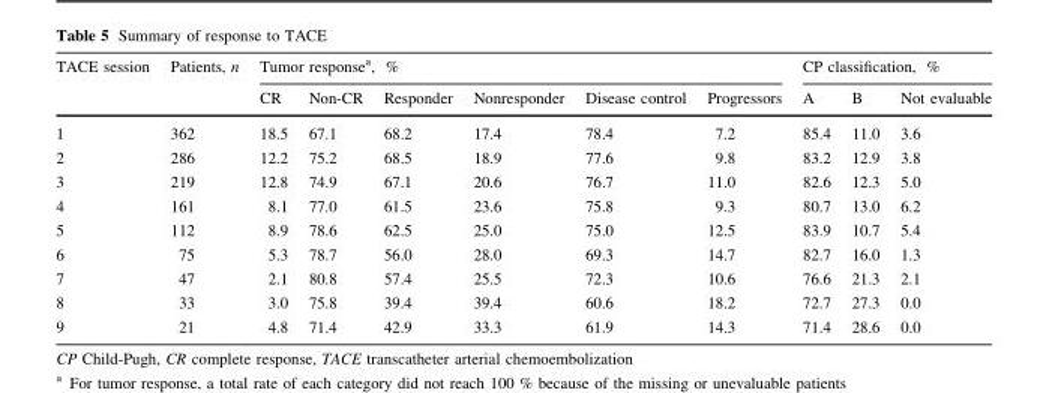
<table><thead><tr><td rowspan="2">TACE session</td><td rowspan="2">Patients, n</td><td colspan="6">Tumor response<sup>a</sup>, %</td><td colspan="3">CP classification, %</td></tr><tr><td>CR</td><td>Non-CR</td><td>Responder</td><td>Nonresponder</td><td>Disease control</td><td>Progressors</td><td>A</td><td>B</td><td>Not evaluable</td></tr></thead><tbody><tr><td>1</td><td>362</td><td>18.5</td><td>67.1</td><td>68.2</td><td>17.4</td><td>78.4</td><td>7.2</td><td>85.4</td><td>11.0</td><td>3.6</td></tr><tr><td>2</td><td>286</td><td>12.2</td><td>75.2</td><td>68.5</td><td>18.9</td><td>77.6</td><td>9.8</td><td>83.2</td><td>12.9</td><td>3.8</td></tr><tr><td>3</td><td>219</td><td>12.8</td><td>74.9</td><td>67.1</td><td>20.6</td><td>76.7</td><td>11.0</td><td>82.6</td><td>12.3</td><td>5.0</td></tr><tr><td>4</td><td>161</td><td>8.1</td><td>77.0</td><td>61.5</td><td>23.6</td><td>75.8</td><td>9.3</td><td>80.7</td><td>13.0</td><td>6.2</td></tr><tr><td>5</td><td>112</td><td>8.9</td><td>78.6</td><td>62.5</td><td>25.0</td><td>75.0</td><td>12.5</td><td>83.9</td><td>10.7</td><td>5.4</td></tr><tr><td>6</td><td>75</td><td>5.3</td><td>78.7</td><td>56.0</td><td>28.0</td><td>69.3</td><td>14.7</td><td>82.7</td><td>16.0</td><td>1.3</td></tr><tr><td>7</td><td>47</td><td>2.1</td><td>80.8</td><td>57.4</td><td>25.5</td><td>72.3</td><td>10.6</td><td>76.6</td><td>21.3</td><td>2.1</td></tr><tr><td>8</td><td>33</td><td>3.0</td><td>75.8</td><td>39.4</td><td>39.4</td><td>60.6</td><td>18.2</td><td>72.7</td><td>27.3</td><td>0.0</td></tr><tr><td>9</td><td>21</td><td>4.8</td><td>71.4</td><td>42.9</td><td>33.3</td><td>61.9</td><td>14.3</td><td>71.4</td><td>28.6</td><td>0.0</td></tr></tbody></table>